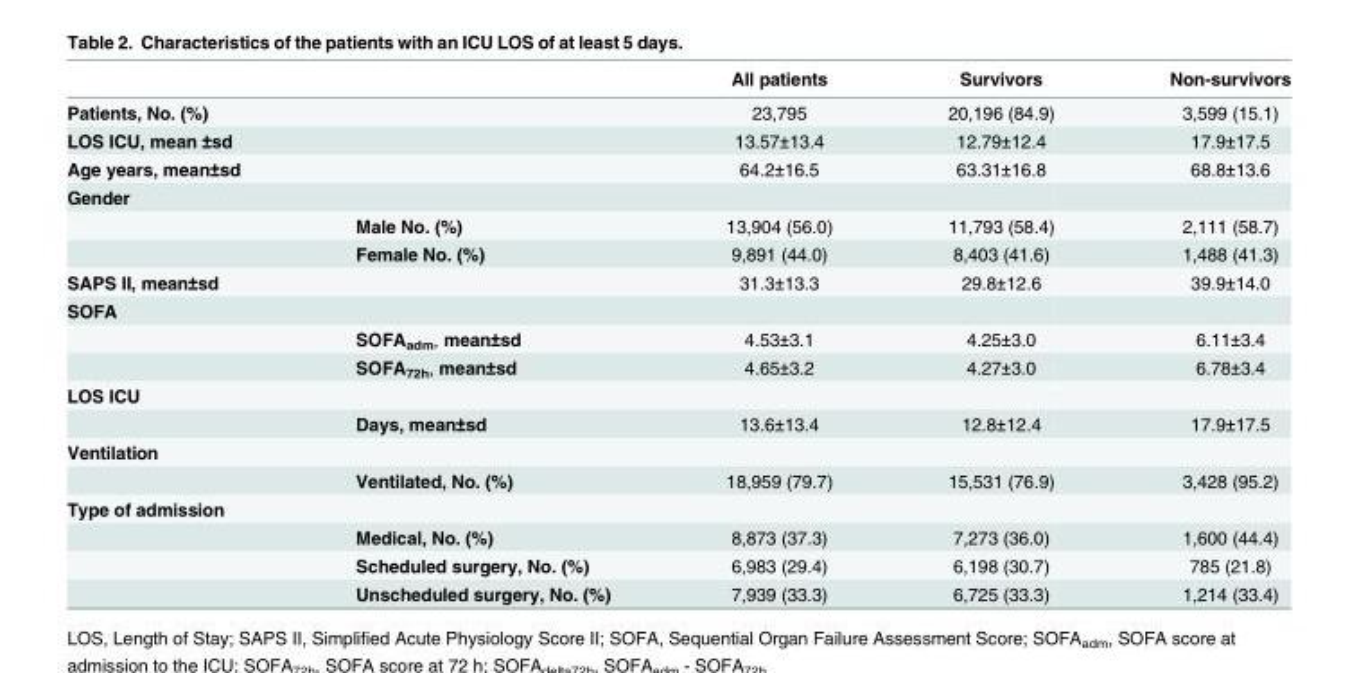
<table><thead><tr><td></td><td></td><td>All patients</td><td>Survivors</td><td>Non-survivors</td></tr></thead><tbody><tr><td>Patients, No. (%)</td><td></td><td>23,795</td><td>20,196 (84.9)</td><td>3,599 (15.1)</td></tr><tr><td>LOS ICU, mean ±sd</td><td></td><td>13.57±13.4</td><td>12.79±12.4</td><td>17.9±17.5</td></tr><tr><td>Age years, mean±sd</td><td></td><td>64.2±16.5</td><td>63.31±16.8</td><td>68.8±13.6</td></tr><tr><td colspan="5">Gender</td></tr><tr><td></td><td>Male No. (%)</td><td>13,904 (56.0)</td><td>11,793 (58.4)</td><td>2,111 (58.7)</td></tr><tr><td></td><td>Female No. (%)</td><td>9,891 (44.0)</td><td>8,403 (41.6)</td><td>1,488 (41.3)</td></tr><tr><td>SAPS II, mean±sd</td><td></td><td>31.3±13.3</td><td>29.8±12.6</td><td>39.9±14.0</td></tr><tr><td colspan="5">SOFA</td></tr><tr><td></td><td>SOFA<sub>adm</sub>, mean±sd</td><td>4.53±3.1</td><td>4.25±3.0</td><td>6.11±3.4</td></tr><tr><td></td><td>SOFA<sub>72h</sub>, mean±sd</td><td>4.65±3.2</td><td>4.27±3.0</td><td>6.78±3.4</td></tr><tr><td colspan="5">LOS ICU</td></tr><tr><td></td><td>Days, mean±sd</td><td>13.6±13.4</td><td>12.8±12.4</td><td>17.9±17.5</td></tr><tr><td colspan="5">Ventilation</td></tr><tr><td></td><td>Ventilated, No. (%)</td><td>18,959 (79.7)</td><td>15,531 (76.9)</td><td>3,428 (95.2)</td></tr><tr><td colspan="5">Type of admission</td></tr><tr><td></td><td>Medical, No. (%)</td><td>8,873 (37.3)</td><td>7,273 (36.0)</td><td>1,600 (44.4)</td></tr><tr><td></td><td>Scheduled surgery, No. (%)</td><td>6,983 (29.4)</td><td>6,198 (30.7)</td><td>785 (21.8)</td></tr><tr><td></td><td>Unscheduled surgery, No. (%)</td><td>7,939 (33.3)</td><td>6,725 (33.3)</td><td>1,214 (33.4)</td></tr></tbody></table>